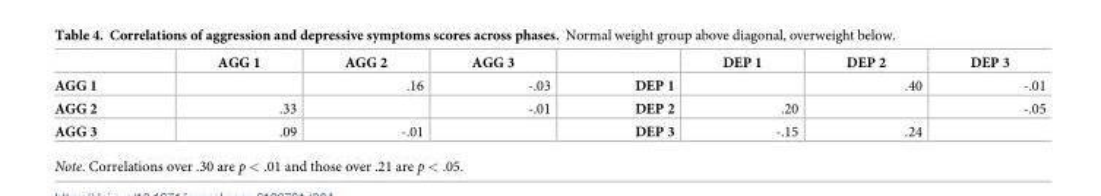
<table><thead><tr><td></td><td>AGG 1</td><td>AGG 2</td><td>AGG 3</td><td></td><td>DEP 1</td><td>DEP 2</td><td>DEP 3</td></tr></thead><tbody><tr><td>AGG 1</td><td></td><td>.16</td><td>-.03</td><td>DEP 1</td><td></td><td>.40</td><td>-.01</td></tr><tr><td>AGG 2</td><td>.33</td><td></td><td>-.01</td><td>DEP 2</td><td>.20</td><td></td><td>-.05</td></tr><tr><td>AGG 3</td><td>.09</td><td>-.01</td><td></td><td>DEP 3</td><td>-.15</td><td>.24</td><td></td></tr></tbody></table>